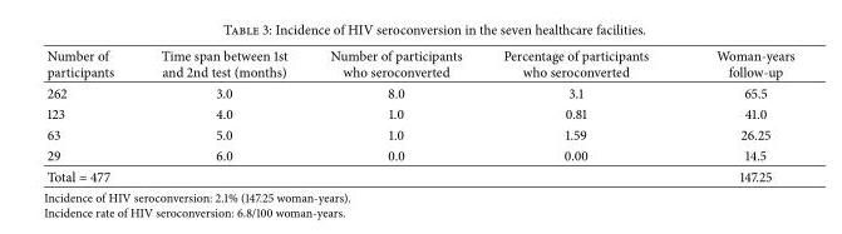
<table><thead><tr><td>Number of participants</td><td>Time span between 1st and 2nd test (months)</td><td>Number of participants who seroconverted</td><td>Percentage of participants who seroconverted</td><td>Woman-years follow-up</td></tr></thead><tbody><tr><td>262</td><td>3.0</td><td>8.0</td><td>3.1</td><td>65.5</td></tr><tr><td>123</td><td>4.0</td><td>1.0</td><td>0.81</td><td>41.0</td></tr><tr><td>63</td><td>5.0</td><td>1.0</td><td>1.59</td><td>26.25</td></tr><tr><td>29</td><td>6.0</td><td>0.0</td><td>0.00</td><td>14.5</td></tr><tr><td>Total = 477</td><td></td><td></td><td></td><td>147.25</td></tr></tbody></table>